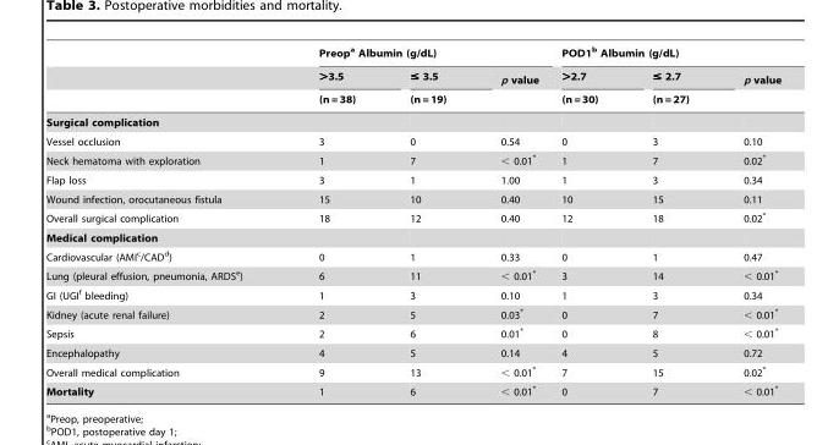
<table><thead><tr><td rowspan="3"></td><td colspan="3">Preop<sup>a</sup> Albumin (g/dL)</td><td colspan="3">POD1<sup>b</sup> Albumin (g/dL)</td></tr><tr><td rowspan="2">&gt;3.5 (n = 38)</td><td rowspan="2">≤ 3.5 (n = 19)</td><td rowspan="2">p value</td><td rowspan="2">&gt;2.7 (n = 30)</td><td rowspan="2">≤ 2.7 (n = 27)</td><td rowspan="2">p value</td></tr><tr></tr></thead><tbody><tr><td colspan="7">Surgical complication</td></tr><tr><td>Vessel occlusion</td><td>3</td><td>0</td><td>0.54</td><td>0</td><td>3</td><td>0.10</td></tr><tr><td>Neck hematoma with exploration</td><td>1</td><td>7</td><td>&lt; 0.01*</td><td>1</td><td>7</td><td>0.02*</td></tr><tr><td>Flap loss</td><td>3</td><td>1</td><td>1.00</td><td>1</td><td>3</td><td>0.34</td></tr><tr><td>Wound infection, orocutaneous fistula</td><td>15</td><td>10</td><td>0.40</td><td>10</td><td>15</td><td>0.11</td></tr><tr><td>Overall surgical complication</td><td>18</td><td>12</td><td>0.40</td><td>12</td><td>18</td><td>0.02*</td></tr><tr><td colspan="7">Medical complication</td></tr><tr><td>Cardiovascular (AMI<sup>c</sup>/CAD<sup>d</sup>)</td><td>0</td><td>1</td><td>0.33</td><td>0</td><td>1</td><td>0.47</td></tr><tr><td>Lung (pleural effusion, pneumonia, ARDS<sup>e</sup>)</td><td>6</td><td>11</td><td>&lt; 0.01*</td><td>3</td><td>14</td><td>&lt; 0.01*</td></tr><tr><td>GI (UGI<sup>f</sup> bleeding)</td><td>1</td><td>3</td><td>0.10</td><td>1</td><td>3</td><td>0.34</td></tr><tr><td>Kidney (acute renal failure)</td><td>2</td><td>5</td><td>0.03*</td><td>0</td><td>7</td><td>&lt; 0.01*</td></tr><tr><td>Sepsis</td><td>2</td><td>6</td><td>0.01*</td><td>0</td><td>8</td><td>&lt; 0.01*</td></tr><tr><td>Encephalopathy</td><td>4</td><td>5</td><td>0.14</td><td>4</td><td>5</td><td>0.72</td></tr><tr><td>Overall medical complication</td><td>9</td><td>13</td><td>&lt; 0.01*</td><td>7</td><td>15</td><td>0.02*</td></tr><tr><td>Mortality</td><td>1</td><td>6</td><td>&lt; 0.01*</td><td>0</td><td>7</td><td>&lt; 0.01*</td></tr></tbody></table>